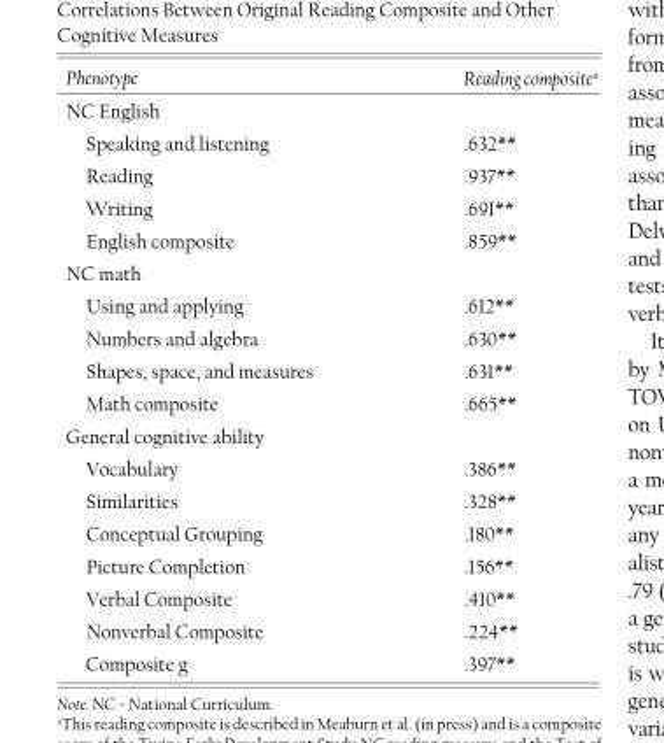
<table><thead><tr><td>Phenotype</td><td>Reading composite <sup>a</sup></td></tr></thead><tbody><tr><td colspan="2">NC English</td></tr><tr><td>Speaking and listening</td><td>.632 **</td></tr><tr><td>Reading</td><td>.937 **</td></tr><tr><td>Writing</td><td>.691 **</td></tr><tr><td>English composite</td><td>.859 **</td></tr><tr><td colspan="2">NC math</td></tr><tr><td>Using and applying</td><td>.612 **</td></tr><tr><td>Numbers and algebra</td><td>.630 **</td></tr><tr><td>Shapes, space, and measures</td><td>.631 **</td></tr><tr><td>Math composite</td><td>.665 **</td></tr><tr><td colspan="2">General cognitive ability</td></tr><tr><td>Vocabulary</td><td>.386 **</td></tr><tr><td>Similarities</td><td>.328 **</td></tr><tr><td>Conceptual Grouping</td><td>.180 **</td></tr><tr><td>Picture Completion</td><td>.156 **</td></tr><tr><td>Verbal Composite</td><td>.410 **</td></tr><tr><td>Nonverbal Composite</td><td>.224 **</td></tr><tr><td>Composite g</td><td>.397 **</td></tr></tbody></table>